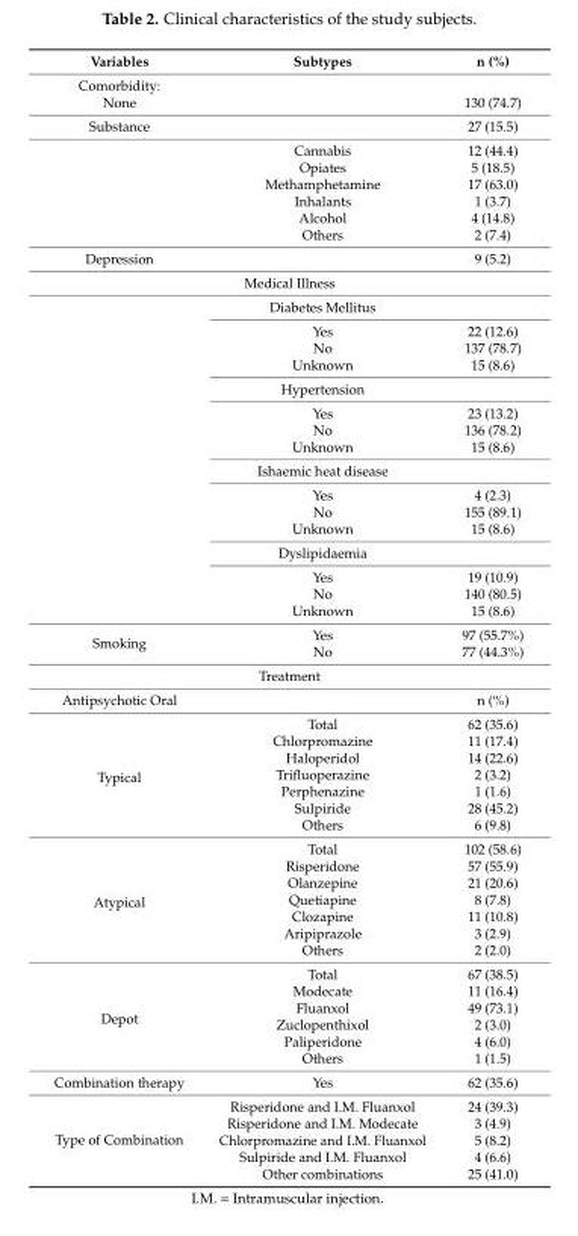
<table><thead><tr><td>Variables</td><td>Subtypes</td><td>n (%)</td></tr></thead><tbody><tr><td colspan="3">Comorbidity:</td></tr><tr><td>None</td><td></td><td>130 (74.7)</td></tr><tr><td rowspan="7">Substance</td><td></td><td>27 (15.5)</td></tr><tr><td>Cannabis</td><td>12 (44.4)</td></tr><tr><td>Opiates</td><td>5 (18.5)</td></tr><tr><td>Methamphetamine</td><td>17 (63.0)</td></tr><tr><td>Inhalants</td><td>1 (3.7)</td></tr><tr><td>Alcohol</td><td>4 (14.8)</td></tr><tr><td>Others</td><td>2 (7.4)</td></tr><tr><td>Depression</td><td></td><td>9 (5.2)</td></tr><tr><td colspan="3">Medical Illness</td></tr><tr><td rowspan="16"></td><td>Diabetes Mellitus</td><td></td></tr><tr><td>Yes</td><td>22 (12.6)</td></tr><tr><td>No</td><td>137 (78.7)</td></tr><tr><td>Unknown</td><td>15 (8.6)</td></tr><tr><td>Hypertension</td><td></td></tr><tr><td>Yes</td><td>23 (13.2)</td></tr><tr><td>No</td><td>136 (78.2)</td></tr><tr><td>Unknown</td><td>15 (8.6)</td></tr><tr><td>Ishaemic heat disease</td><td></td></tr><tr><td>Yes</td><td>4 (2.3)</td></tr><tr><td>No</td><td>155 (89.1)</td></tr><tr><td>Unknown</td><td>15 (8.6)</td></tr><tr><td>Dyslipidaemia</td><td></td></tr><tr><td>Yes</td><td>19 (10.9)</td></tr><tr><td>No</td><td>140 (80.5)</td></tr><tr><td>Unknown</td><td>15 (8.6)</td></tr><tr><td rowspan="2">Smoking</td><td>Yes</td><td>97 (55.7%)</td></tr><tr><td>No</td><td>77 (44.3%)</td></tr><tr><td colspan="3">Treatment</td></tr><tr><td>Antipsychotic Oral</td><td></td><td>n (%)</td></tr><tr><td rowspan="7">Typical</td><td>Total</td><td>62 (35.6)</td></tr><tr><td>Chlorpromazine</td><td>11 (17.4)</td></tr><tr><td>Haloperidol</td><td>14 (22.6)</td></tr><tr><td>Trifluoperazine</td><td>2 (3.2)</td></tr><tr><td>Perphenazine</td><td>1 (1.6)</td></tr><tr><td>Sulpiride</td><td>28 (45.2)</td></tr><tr><td>Others</td><td>6 (9.8)</td></tr><tr><td rowspan="7">Atypical</td><td>Total</td><td>102 (58.6)</td></tr><tr><td>Risperidone</td><td>57 (55.9)</td></tr><tr><td>Olanzepine</td><td>21 (20.6)</td></tr><tr><td>Quetiapine</td><td>8 (7.8)</td></tr><tr><td>Clozapine</td><td>11 (10.8)</td></tr><tr><td>Aripiprazole</td><td>3 (2.9)</td></tr><tr><td>Others</td><td>2 (2.0)</td></tr><tr><td rowspan="6">Depot</td><td>Total</td><td>67 (38.5)</td></tr><tr><td>Modecate</td><td>11 (16.4)</td></tr><tr><td>Fluanxol</td><td>49 (73.1)</td></tr><tr><td>Zuclopenthixol</td><td>2 (3.0)</td></tr><tr><td>Paliperidone</td><td>4 (6.0)</td></tr><tr><td>Others</td><td>1 (1.5)</td></tr><tr><td>Combination therapy</td><td>Yes</td><td>62 (35.6)</td></tr><tr><td rowspan="5">Type of Combination</td><td>Risperidone and I.M. Fluanxol</td><td>24 (39.3)</td></tr><tr><td>Risperidone and I.M. Modecate</td><td>3 (4.9)</td></tr><tr><td>Chlorpromazine and I.M. Fluanxol</td><td>5 (8.2)</td></tr><tr><td>Sulpiride and I.M. Fluanxol</td><td>4 (6.6)</td></tr><tr><td>Other combinations</td><td>25 (41.0)</td></tr></tbody></table>